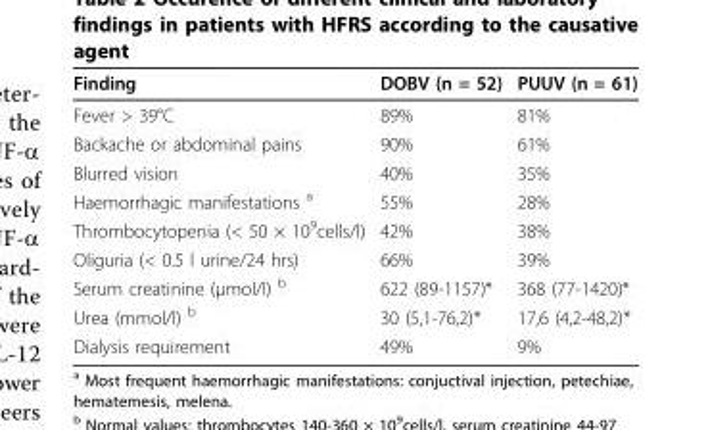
<table><thead><tr><td>Finding</td><td>DOBV (n = 52)</td><td>PUUV (n = 61)</td></tr></thead><tbody><tr><td>Fever &gt; 39°C</td><td>89%</td><td>81%</td></tr><tr><td>Backache or abdominal pains</td><td>90%</td><td>61%</td></tr><tr><td>Blurred vision</td><td>40%</td><td>35%</td></tr><tr><td>Haemorrhagic manifestations <sup>a</sup></td><td>55%</td><td>28%</td></tr><tr><td>Thrombocytopenia (&lt; 50 × 10<sup>9</sup>cells/l)</td><td>42%</td><td>38%</td></tr><tr><td>Oliguria (&lt; 0.5 l urine/24 hrs)</td><td>66%</td><td>39%</td></tr><tr><td>Serum creatinine (μmol/l) <sup>b</sup></td><td>622 (89-1157)*</td><td>368 (77-1420)*</td></tr><tr><td>Urea (mmol/l) <sup>b</sup></td><td>30 (5,1-76,2)*</td><td>17,6 (4,2-48,2)*</td></tr><tr><td>Dialysis requirement</td><td>49%</td><td>9%</td></tr></tbody></table>